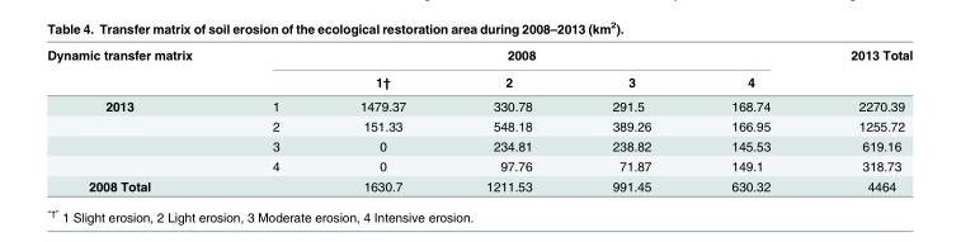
<table><thead><tr><td rowspan="2">Dynamic transfer matrix</td><td colspan="5">2008</td><td rowspan="2">2013 Total</td></tr><tr><td></td><td>1†</td><td>2</td><td>3</td><td>4</td></tr></thead><tbody><tr><td rowspan="4">2013</td><td>1</td><td>1479.37</td><td>330.78</td><td>291.5</td><td>168.74</td><td>2270.39</td></tr><tr><td>2</td><td>151.33</td><td>548.18</td><td>389.26</td><td>166.95</td><td>1255.72</td></tr><tr><td>3</td><td>0</td><td>234.81</td><td>238.82</td><td>145.53</td><td>619.16</td></tr><tr><td>4</td><td>0</td><td>97.76</td><td>71.87</td><td>149.1</td><td>318.73</td></tr><tr><td>2008 Total</td><td></td><td>1630.7</td><td>1211.53</td><td>991.45</td><td>630.32</td><td>4464</td></tr></tbody></table>